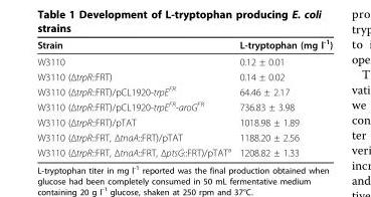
<table><thead><tr><td>Strain</td><td>L-tryptophan (mg l<sup>-1</sup>)</td></tr></thead><tbody><tr><td>W3110</td><td>0.12 ± 0.01</td></tr><tr><td>W3110 (ΔtrpR::FRT)</td><td>0.14 ± 0.02</td></tr><tr><td>W3110 (ΔtrpR::FRT)/pCL1920-trpEFR</td><td>64.46 ± 2.17</td></tr><tr><td>W3110 (ΔtrpR::FRT)/pCL1920-trpEFR-aroGFR</td><td>736.83 ± 3.98</td></tr><tr><td>W3110 (ΔtrpR::FRT)/pTAT</td><td>1018.98 ± 1.89</td></tr><tr><td>W3110 (ΔtrpR::FRT, ΔtnaA::FRT)/pTAT</td><td>1188.20 ± 2.56</td></tr><tr><td>W3110 (ΔtrpR::FRT, ΔtnaA::FRT, ΔptsG::FRT)/pTATa</td><td>1208.82 ± 1.33</td></tr></tbody></table>